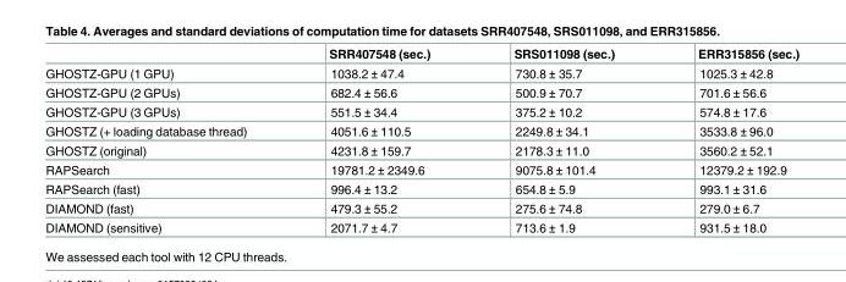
<table><thead><tr><td></td><td>SRR407548 (sec.)</td><td>SRS011098 (sec.)</td><td>ERR315856 (sec.)</td></tr></thead><tbody><tr><td>GHOSTZ-GPU (1 GPU)</td><td>1038.2 ± 47.4</td><td>730.8 ± 35.7</td><td>1025.3 ± 42.8</td></tr><tr><td>GHOSTZ-GPU (2 GPUs)</td><td>682.4 ± 56.6</td><td>500.9 ± 70.7</td><td>701.6 ± 56.6</td></tr><tr><td>GHOSTZ-GPU (3 GPUs)</td><td>551.5 ± 34.4</td><td>375.2 ± 10.2</td><td>574.8 ± 17.6</td></tr><tr><td>GHOSTZ (+ loading database thread)</td><td>4051.6 ± 110.5</td><td>2249.8 ± 34.1</td><td>3533.8 ± 96.0</td></tr><tr><td>GHOSTZ (original)</td><td>4231.8 ± 159.7</td><td>2178.3 ± 11.0</td><td>3560.2 ± 52.1</td></tr><tr><td>RAPSearch</td><td>19781.2 ± 2349.6</td><td>9075.8 ± 101.4</td><td>12379.2 ± 192.9</td></tr><tr><td>RAPSearch (fast)</td><td>996.4 ± 13.2</td><td>654.8 ± 5.9</td><td>993.1 ± 31.6</td></tr><tr><td>DIAMOND (fast)</td><td>479.3 ± 55.2</td><td>275.6 ± 74.8</td><td>279.0 ± 6.7</td></tr><tr><td>DIAMOND (sensitive)</td><td>2071.7 ± 4.7</td><td>713.6 ± 1.9</td><td>931.5 ± 18.0</td></tr></tbody></table>